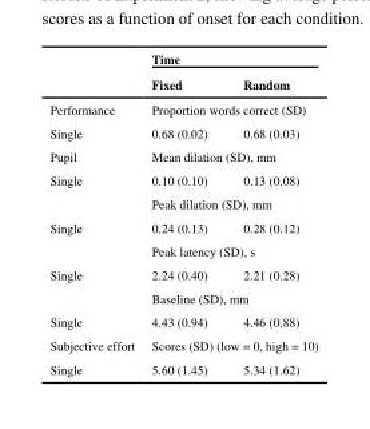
<table><thead><tr><td rowspan="2"></td><td colspan="2">Time</td></tr><tr><td>Fixed</td><td>Random</td></tr></thead><tbody><tr><td>Performance</td><td colspan="2">Proportion words correct (SD)</td></tr><tr><td>Single</td><td>0.68 (0.02)</td><td>0.68 (0.03)</td></tr><tr><td>Pupil</td><td colspan="2">Mean dilation (SD), mm</td></tr><tr><td rowspan="2">Single</td><td>0.10 (0.10)</td><td>0.13 (0.08)</td></tr><tr><td colspan="2">Peak dilation (SD), mm</td></tr><tr><td rowspan="2">Single</td><td>0.24 (0.13)</td><td>0.28 (0.12)</td></tr><tr><td colspan="2">Peak latency (SD), s</td></tr><tr><td rowspan="2">Single</td><td>2.24 (0.40)</td><td>2.21 (0.28)</td></tr><tr><td colspan="2">Baseline (SD), mm</td></tr><tr><td>Single</td><td>4.43 (0.94)</td><td>4.46 (0.88)</td></tr><tr><td>Subjective effort</td><td colspan="2">Scores (SD) (low = 0, high = 10)</td></tr><tr><td>Single</td><td>5.60 (1.45)</td><td>5.34 (1.62)</td></tr></tbody></table>